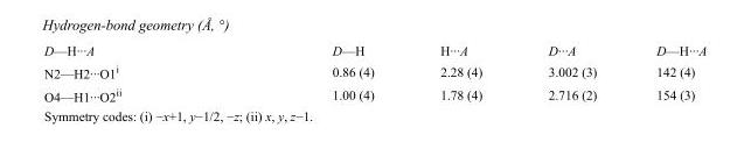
<table><tbody><tr><td>D—H···A</td><td>D—H</td><td>H···A</td><td>D···A</td><td>D—H···A</td></tr><tr><td>N2—H2···O1<sup>i</sup></td><td>0.86 (4)</td><td>2.28 (4)</td><td>3.002 (3)</td><td>142 (4)</td></tr><tr><td>O4—H1···O2<sup>ii</sup></td><td>1.00 (4)</td><td>1.78 (4)</td><td>2.716 (2)</td><td>154 (3)</td></tr></tbody></table>